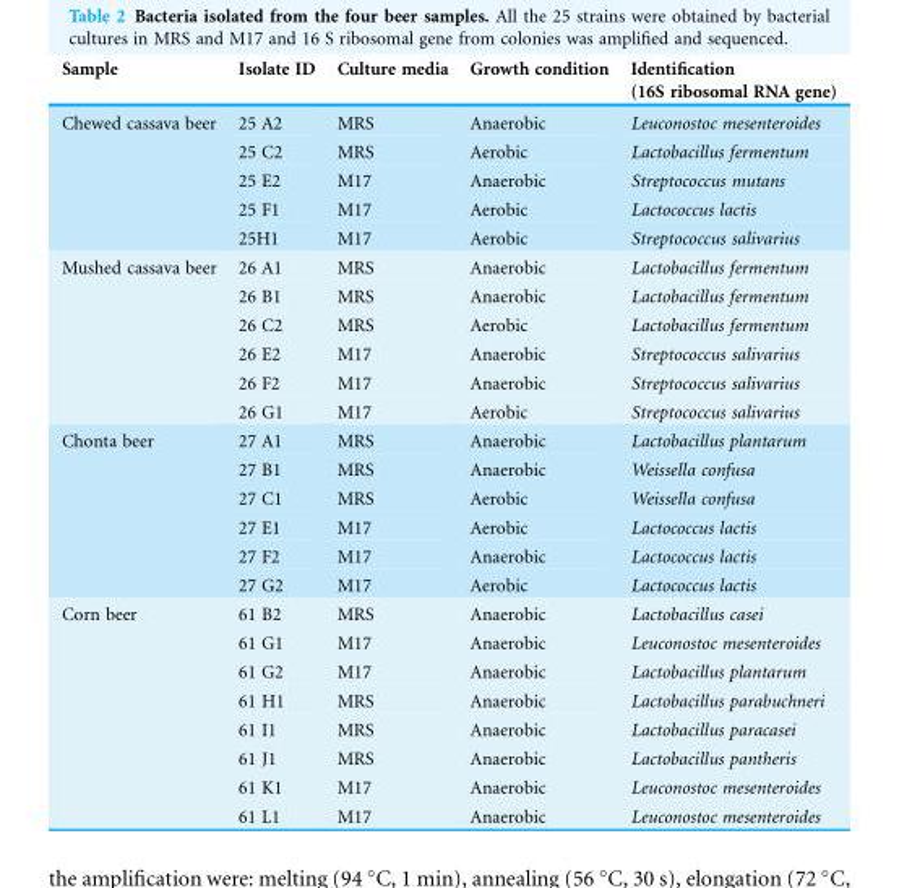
<table><thead><tr><td>Sample</td><td>Isolate ID</td><td>Culture media</td><td>Growth condition</td><td>Identification (16S ribosomal RNA gene)</td></tr></thead><tbody><tr><td rowspan="5">Chewed cassava beer</td><td>25 A2</td><td>MRS</td><td>Anaerobic</td><td>Leuconostoc mesenteroides</td></tr><tr><td>25 C2</td><td>MRS</td><td>Aerobic</td><td>Lactobacillus fermentum</td></tr><tr><td>25 E2</td><td>M17</td><td>Anaerobic</td><td>Streptococcus mutans</td></tr><tr><td>25 F1</td><td>M17</td><td>Aerobic</td><td>Lactococcus lactis</td></tr><tr><td>25H1</td><td>M17</td><td>Aerobic</td><td>Streptococcus salivarius</td></tr><tr><td rowspan="6">Mushed cassava beer</td><td>26 A1</td><td>MRS</td><td>Anaerobic</td><td>Lactobacillus fermentum</td></tr><tr><td>26 B1</td><td>MRS</td><td>Anaerobic</td><td>Lactobacillus fermentum</td></tr><tr><td>26 C2</td><td>MRS</td><td>Aerobic</td><td>Lactobacillus fermentum</td></tr><tr><td>26 E2</td><td>M17</td><td>Anaerobic</td><td>Streptococcus salivarius</td></tr><tr><td>26 F2</td><td>M17</td><td>Anaerobic</td><td>Streptococcus salivarius</td></tr><tr><td>26 G1</td><td>M17</td><td>Aerobic</td><td>Streptococcus salivarius</td></tr><tr><td rowspan="6">Chonta beer</td><td>27 A1</td><td>MRS</td><td>Anaerobic</td><td>Lactobacillus plantarum</td></tr><tr><td>27 B1</td><td>MRS</td><td>Anaerobic</td><td>Weissella confusa</td></tr><tr><td>27 C1</td><td>MRS</td><td>Aerobic</td><td>Weissella confusa</td></tr><tr><td>27 E1</td><td>M17</td><td>Aerobic</td><td>Lactococcus lactis</td></tr><tr><td>27 F2</td><td>M17</td><td>Anaerobic</td><td>Lactococcus lactis</td></tr><tr><td>27 G2</td><td>M17</td><td>Aerobic</td><td>Lactococcus lactis</td></tr><tr><td rowspan="8">Corn beer</td><td>61 B2</td><td>MRS</td><td>Anaerobic</td><td>Lactobacillus casei</td></tr><tr><td>61 G1</td><td>M17</td><td>Anaerobic</td><td>Leuconostoc mesenteroides</td></tr><tr><td>61 G2</td><td>M17</td><td>Anaerobic</td><td>Lactobacillus plantarum</td></tr><tr><td>61 H1</td><td>MRS</td><td>Anaerobic</td><td>Lactobacillus parabuchneri</td></tr><tr><td>61 I1</td><td>MRS</td><td>Anaerobic</td><td>Lactobacillus paracasei</td></tr><tr><td>61 J1</td><td>MRS</td><td>Anaerobic</td><td>Lactobacillus pantheris</td></tr><tr><td>61 K1</td><td>M17</td><td>Anaerobic</td><td>Leuconostoc mesenteroides</td></tr><tr><td>61 L1</td><td>M17</td><td>Anaerobic</td><td>Leuconostoc mesenteroides</td></tr></tbody></table>